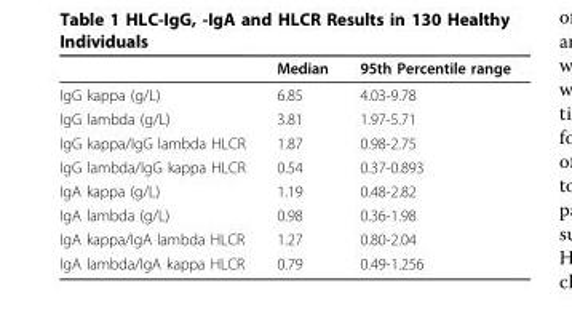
<table><thead><tr><td></td><td>Median</td><td>95th Percentile range</td></tr></thead><tbody><tr><td>IgG kappa (g/L)</td><td>6.85</td><td>4.03-9.78</td></tr><tr><td>IgG lambda (g/L)</td><td>3.81</td><td>1.97-5.71</td></tr><tr><td>IgG kappa/IgG lambda HLCR</td><td>1.87</td><td>0.98-2.75</td></tr><tr><td>IgG lambda/IgG kappa HLCR</td><td>0.54</td><td>0.37-0.893</td></tr><tr><td>IgA kappa (g/L)</td><td>1.19</td><td>0.48-2.82</td></tr><tr><td>IgA lambda (g/L)</td><td>0.98</td><td>0.36-1.98</td></tr><tr><td>IgA kappa/IgA lambda HLCR</td><td>1.27</td><td>0.80-2.04</td></tr><tr><td>IgA lambda/IgA kappa HLCR</td><td>0.79</td><td>0.49-1.256</td></tr></tbody></table>